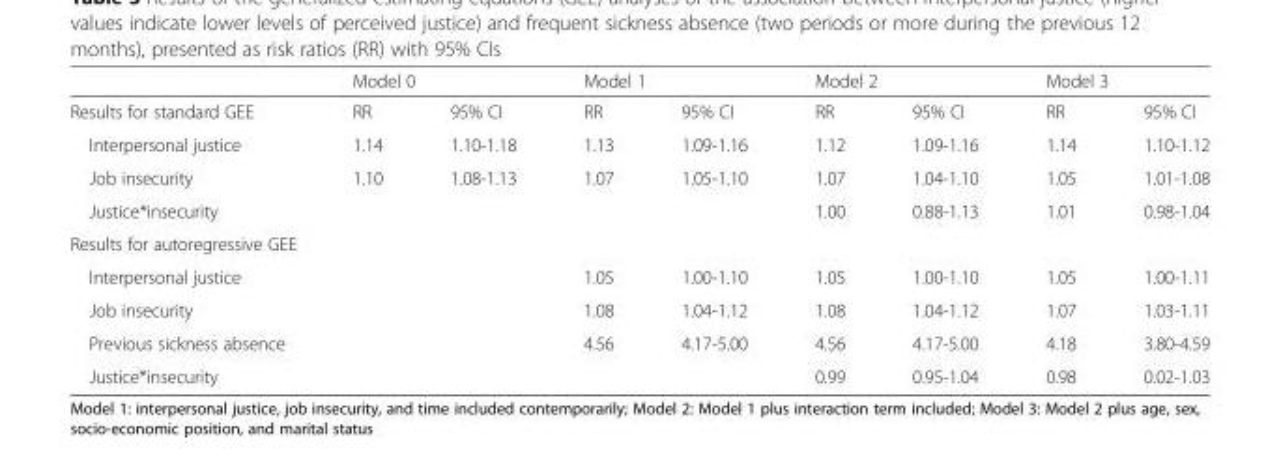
<table><thead><tr><td rowspan="2">Results for standard GEE</td><td colspan="2">Model 0</td><td colspan="2">Model 1</td><td colspan="2">Model 2</td><td colspan="2">Model 3</td></tr><tr><td>RR</td><td>95% CI</td><td>RR</td><td>95% CI</td><td>RR</td><td>95% CI</td><td>RR</td><td>95% CI</td></tr></thead><tbody><tr><td>Interpersonal justice</td><td>1.14</td><td>1.10-1.18</td><td>1.13</td><td>1.09-1.16</td><td>1.12</td><td>1.09-1.16</td><td>1.14</td><td>1.10-1.12</td></tr><tr><td>Job insecurity</td><td>1.10</td><td>1.08-1.13</td><td>1.07</td><td>1.05-1.10</td><td>1.07</td><td>1.04-1.10</td><td>1.05</td><td>1.01-1.08</td></tr><tr><td>Justice*insecurity</td><td></td><td></td><td></td><td></td><td>1.00</td><td>0.88-1.13</td><td>1.01</td><td>0.98-1.04</td></tr><tr><td colspan="9">Results for autoregressive GEE</td></tr><tr><td>Interpersonal justice</td><td></td><td></td><td>1.05</td><td>1.00-1.10</td><td>1.05</td><td>1.00-1.10</td><td>1.05</td><td>1.00-1.11</td></tr><tr><td>Job insecurity</td><td></td><td></td><td>1.08</td><td>1.04-1.12</td><td>1.08</td><td>1.04-1.12</td><td>1.07</td><td>1.03-1.11</td></tr><tr><td>Previous sickness absence</td><td></td><td></td><td>4.56</td><td>4.17-5.00</td><td>4.56</td><td>4.17-5.00</td><td>4.18</td><td>3.80-4.59</td></tr><tr><td>Justice*insecurity</td><td></td><td></td><td></td><td></td><td>0.99</td><td>0.95-1.04</td><td>0.98</td><td>0.02-1.03</td></tr></tbody></table>